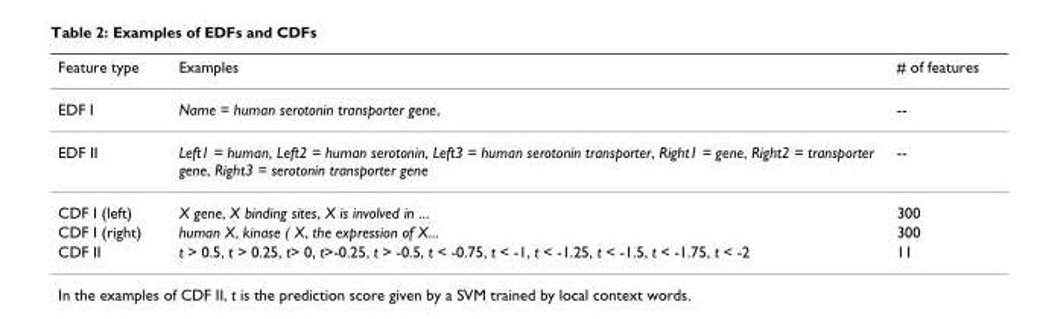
<table><thead><tr><td>Feature type</td><td>Examples</td><td># of features</td></tr></thead><tbody><tr><td>EDF I</td><td>Name = human serotonin transporter gene,</td><td>--</td></tr><tr><td>EDF II</td><td>Left1 = human, Left2 = human serotonin, Left3 = human serotonin transporter, Right1 = gene, Right2 = transporter gene, Right3 = serotonin transporter gene</td><td>--</td></tr><tr><td>CDF I (left)</td><td>X gene, X binding sites, X is involved in ...</td><td>300</td></tr><tr><td>CDF I (right)</td><td>human X, kinase ( X, the expression of X...</td><td>300</td></tr><tr><td>CDF II</td><td>t &gt; 0.5, t &gt; 0.25, t&gt; 0, t&gt;-0.25, t &gt; -0.5, t &lt; -0.75, t &lt; -1, t &lt; -1.25, t &lt; -1.5, t &lt; -1.75, t &lt; -2</td><td>11</td></tr></tbody></table>